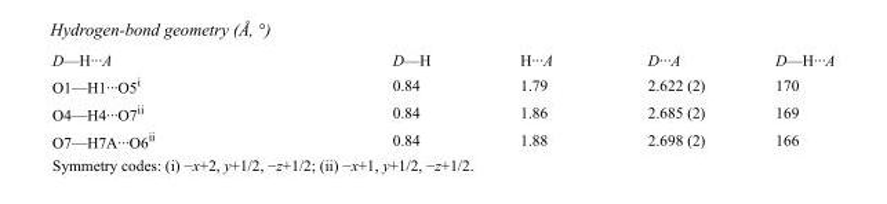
<table><tbody><tr><td>D—H···A</td><td>D—H</td><td>H···A</td><td>D···A</td><td>D—H···A</td></tr><tr><td>O1—H1···O5<sup>i</sup></td><td>0.84</td><td>1.79</td><td>2.622 (2)</td><td>170</td></tr><tr><td>O4—H4···O7<sup>ii</sup></td><td>0.84</td><td>1.86</td><td>2.685 (2)</td><td>169</td></tr><tr><td>O7—H7A···O6<sup>ii</sup></td><td>0.84</td><td>1.88</td><td>2.698 (2)</td><td>166</td></tr></tbody></table>